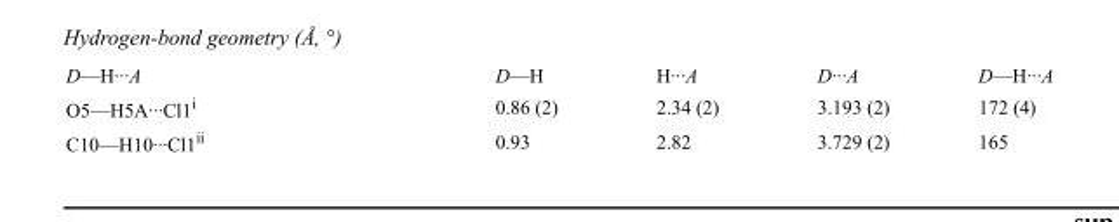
<table><tbody><tr><td>D—H···A</td><td>D—H</td><td>H···A</td><td>D···A</td><td>D—H···A</td></tr><tr><td>O5—H5A···Cl1<sup>i</sup></td><td>0.86 (2)</td><td>2.34 (2)</td><td>3.193 (2)</td><td>172 (4)</td></tr><tr><td>C10—H10···Cl1<sup>ii</sup></td><td>0.93</td><td>2.82</td><td>3.729 (2)</td><td>165</td></tr></tbody></table>